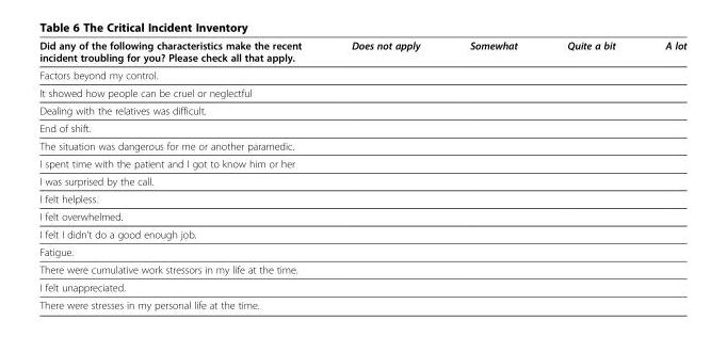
<table><thead><tr><td>Did any of the following characteristics make the recent incident troubling for you? Please check all that apply.</td><td>Does not apply</td><td>Somewhat</td><td>Quite a bit</td><td>A lot</td></tr></thead><tbody><tr><td colspan="5">Factors beyond my control.</td></tr><tr><td colspan="5">It showed how people can be cruel or neglectful</td></tr><tr><td colspan="5">Dealing with the relatives was difficult.</td></tr><tr><td colspan="5">End of shift.</td></tr><tr><td colspan="5">The situation was dangerous for me or another paramedic.</td></tr><tr><td colspan="5">I spent time with the patient and I got to know him or her</td></tr><tr><td colspan="5">I was surprised by the call.</td></tr><tr><td colspan="5">I felt helpless.</td></tr><tr><td colspan="5">I felt overwhelmed.</td></tr><tr><td colspan="5">I felt I didn’t do a good enough job.</td></tr><tr><td colspan="5">Fatigue.</td></tr><tr><td colspan="5">There were cumulative work stressors in my life at the time.</td></tr><tr><td colspan="5">I felt unappreciated.</td></tr><tr><td>There were stresses in my personal life at the time.</td><td></td><td></td><td></td><td></td></tr></tbody></table>